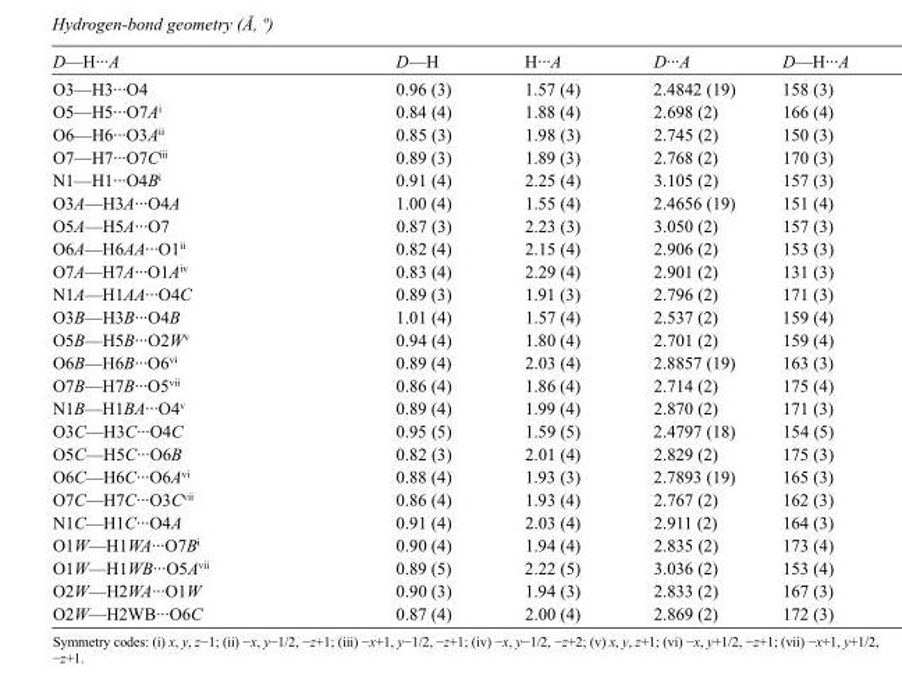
<table><tbody><tr><td>D—H···A</td><td>D—H</td><td>H···A</td><td>D···A</td><td>D—H···A</td></tr><tr><td>O3—H3···O4</td><td>0.96 (3)</td><td>1.57 (4)</td><td>2.4842 (19)</td><td>158 (3)</td></tr><tr><td>O5—H5···O7A<sup>i</sup></td><td>0.84 (4)</td><td>1.88 (4)</td><td>2.698 (2)</td><td>166 (4)</td></tr><tr><td>O6—H6···O3A<sup>ii</sup></td><td>0.85 (3)</td><td>1.98 (3)</td><td>2.745 (2)</td><td>150 (3)</td></tr><tr><td>O7—H7···O7C<sup>iii</sup></td><td>0.89 (3)</td><td>1.89 (3)</td><td>2.768 (2)</td><td>170 (3)</td></tr><tr><td>N1—H1···O4B<sup>i</sup></td><td>0.91 (4)</td><td>2.25 (4)</td><td>3.105 (2)</td><td>157 (3)</td></tr><tr><td>O3A—H3A···O4A</td><td>1.00 (4)</td><td>1.55 (4)</td><td>2.4656 (19)</td><td>151 (4)</td></tr><tr><td>O5A—H5A···O7</td><td>0.87 (3)</td><td>2.23 (3)</td><td>3.050 (2)</td><td>157 (3)</td></tr><tr><td>O6A—H6AA···O1<sup>ii</sup></td><td>0.82 (4)</td><td>2.15 (4)</td><td>2.906 (2)</td><td>153 (3)</td></tr><tr><td>O7A—H7A···O1A<sup>iv</sup></td><td>0.83 (4)</td><td>2.29 (4)</td><td>2.901 (2)</td><td>131 (3)</td></tr><tr><td>N1A—H1AA···O4C</td><td>0.89 (3)</td><td>1.91 (3)</td><td>2.796 (2)</td><td>171 (3)</td></tr><tr><td>O3B—H3B···O4B</td><td>1.01 (4)</td><td>1.57 (4)</td><td>2.537 (2)</td><td>159 (4)</td></tr><tr><td>O5B—H5B···O2W<sup>v</sup></td><td>0.94 (4)</td><td>1.80 (4)</td><td>2.701 (2)</td><td>159 (4)</td></tr><tr><td>O6B—H6B···O6<sup>vi</sup></td><td>0.89 (4)</td><td>2.03 (4)</td><td>2.8857 (19)</td><td>163 (3)</td></tr><tr><td>O7B—H7B···O5<sup>vii</sup></td><td>0.86 (4)</td><td>1.86 (4)</td><td>2.714 (2)</td><td>175 (4)</td></tr><tr><td>N1B—H1BA···O4<sup>v</sup></td><td>0.89 (4)</td><td>1.99 (4)</td><td>2.870 (2)</td><td>171 (3)</td></tr><tr><td>O3C—H3C···O4C</td><td>0.95 (5)</td><td>1.59 (5)</td><td>2.4797 (18)</td><td>154 (5)</td></tr><tr><td>O5C—H5C···O6B</td><td>0.82 (3)</td><td>2.01 (4)</td><td>2.829 (2)</td><td>175 (3)</td></tr><tr><td>O6C—H6C···O6A<sup>vi</sup></td><td>0.88 (4)</td><td>1.93 (3)</td><td>2.7893 (19)</td><td>165 (3)</td></tr><tr><td>O7C—H7C···O3C<sup>vii</sup></td><td>0.86 (4)</td><td>1.93 (4)</td><td>2.767 (2)</td><td>162 (3)</td></tr><tr><td>N1C—H1C···O4A</td><td>0.91 (4)</td><td>2.03 (4)</td><td>2.911 (2)</td><td>164 (3)</td></tr><tr><td>O1W—H1WA···O7B<sup>i</sup></td><td>0.90 (4)</td><td>1.94 (4)</td><td>2.835 (2)</td><td>173 (4)</td></tr><tr><td>O1W—H1WB···O5A<sup>vii</sup></td><td>0.89 (5)</td><td>2.22 (5)</td><td>3.036 (2)</td><td>153 (4)</td></tr><tr><td>O2W—H2WA···O1W</td><td>0.90 (3)</td><td>1.94 (3)</td><td>2.833 (2)</td><td>167 (3)</td></tr><tr><td>O2W—H2WB···O6C</td><td>0.87 (4)</td><td>2.00 (4)</td><td>2.869 (2)</td><td>172 (3)</td></tr></tbody></table>